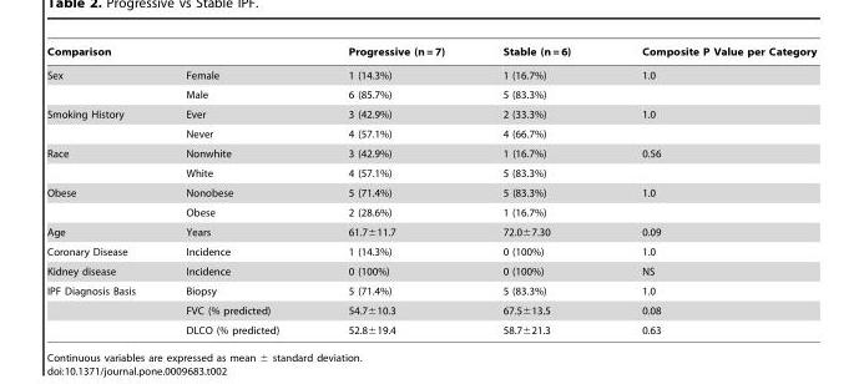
<table><thead><tr><td>Comparison</td><td></td><td>Progressive (n = 7)</td><td>Stable (n = 6)</td><td>Composite P Value per Category</td></tr></thead><tbody><tr><td rowspan="2">Sex</td><td>Female</td><td>1 (14.3%)</td><td>1 (16.7%)</td><td>1.0</td></tr><tr><td>Male</td><td>6 (85.7%)</td><td>5 (83.3%)</td><td></td></tr><tr><td rowspan="2">Smoking History</td><td>Ever</td><td>3 (42.9%)</td><td>2 (33.3%)</td><td>1.0</td></tr><tr><td>Never</td><td>4 (57.1%)</td><td>4 (66.7%)</td><td></td></tr><tr><td rowspan="2">Race</td><td>Nonwhite</td><td>3 (42.9%)</td><td>1 (16.7%)</td><td>0.56</td></tr><tr><td>White</td><td>4 (57.1%)</td><td>5 (83.3%)</td><td></td></tr><tr><td rowspan="2">Obese</td><td>Nonobese</td><td>5 (71.4%)</td><td>5 (83.3%)</td><td>1.0</td></tr><tr><td>Obese</td><td>2 (28.6%)</td><td>1 (16.7%)</td><td></td></tr><tr><td>Age</td><td>Years</td><td>61.7±11.7</td><td>72.0±7.30</td><td>0.09</td></tr><tr><td>Coronary Disease</td><td>Incidence</td><td>1 (14.3%)</td><td>0 (100%)</td><td>1.0</td></tr><tr><td>Kidney disease</td><td>Incidence</td><td>0 (100%)</td><td>0 (100%)</td><td>NS</td></tr><tr><td rowspan="3">IPF Diagnosis Basis</td><td>Biopsy</td><td>5 (71.4%)</td><td>5 (83.3%)</td><td>1.0</td></tr><tr><td>FVC (% predicted)</td><td>54.7±10.3</td><td>67.5±13.5</td><td>0.08</td></tr><tr><td>DLCO (% predicted)</td><td>52.8±19.4</td><td>58.7±21.3</td><td>0.63</td></tr></tbody></table>